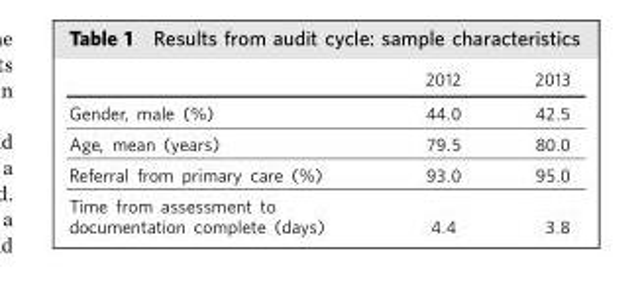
<table><thead><tr><td></td><td>2012</td><td>2013</td></tr></thead><tbody><tr><td>Gender, male (%)</td><td>44.0</td><td>42.5</td></tr><tr><td>Age, mean (years)</td><td>79.5</td><td>80.0</td></tr><tr><td>Referral from primary care (%)</td><td>93.0</td><td>95.0</td></tr><tr><td>Time from assessment to documentation complete (days)</td><td>4.4</td><td>3.8</td></tr></tbody></table>